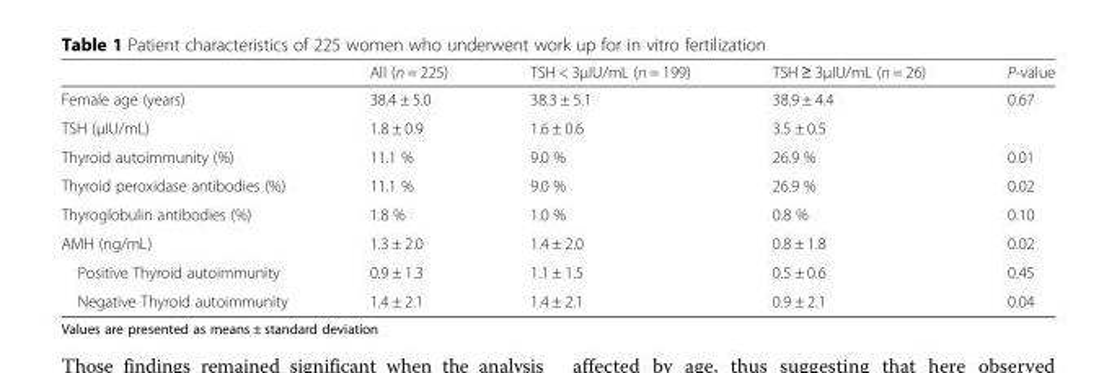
<table><thead><tr><td></td><td>All (n = 225)</td><td>TSH &lt; 3μIU/mL (n = 199)</td><td>TSH ≥ 3μIU/mL (n = 26)</td><td>P-value</td></tr></thead><tbody><tr><td>Female age (years)</td><td>38.4 ± 5.0</td><td>38.3 ± 5.1</td><td>38.9 ± 4.4</td><td>0.67</td></tr><tr><td>TSH (μIU/mL)</td><td>1.8 ± 0.9</td><td>1.6 ± 0.6</td><td>3.5 ± 0.5</td><td></td></tr><tr><td>Thyroid autoimmunity (%)</td><td>11.1 %</td><td>9.0 %</td><td>26.9 %</td><td>0.01</td></tr><tr><td>Thyroid peroxidase antibodies (%)</td><td>11.1 %</td><td>9.0 %</td><td>26.9 %</td><td>0.02</td></tr><tr><td>Thyroglobulin antibodies (%)</td><td>1.8 %</td><td>1.0 %</td><td>0.8 %</td><td>0.10</td></tr><tr><td>AMH (ng/mL)</td><td>1.3 ± 2.0</td><td>1.4 ± 2.0</td><td>0.8 ± 1.8</td><td>0.02</td></tr><tr><td>Positive Thyroid autoimmunity</td><td>0.9 ± 1.3</td><td>1.1 ± 1.5</td><td>0.5 ± 0.6</td><td>0.45</td></tr><tr><td>Negative Thyroid autoimmunity</td><td>1.4 ± 2.1</td><td>1.4 ± 2.1</td><td>0.9 ± 2.1</td><td>0.04</td></tr></tbody></table>